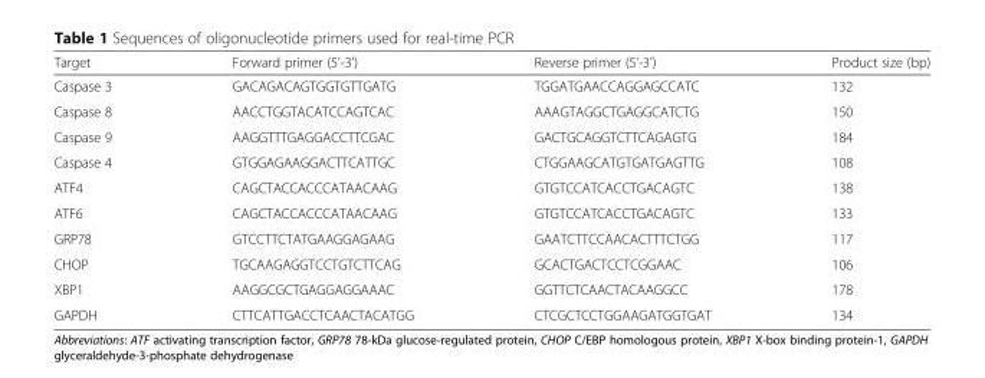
<table><thead><tr><td>Target</td><td>Forward primer (5&#x27;-3&#x27;)</td><td>Reverse primer (5&#x27;-3&#x27;)</td><td>Product size (bp)</td></tr></thead><tbody><tr><td>Caspase 3</td><td>GACAGACAGTGGTGTTGATG</td><td>TGGATGAACCAGGAGCCATC</td><td>132</td></tr><tr><td>Caspase 8</td><td>AACCTGGTACATCCAGTCAC</td><td>AAAGTAGGCTGAGGCATCTG</td><td>150</td></tr><tr><td>Caspase 9</td><td>AAGGTTTGAGGACCTTCGAC</td><td>GACTGCAGGTCTTCAGAGTG</td><td>184</td></tr><tr><td>Caspase 4</td><td>GTGGAGAAGGACTTCATTGC</td><td>CTGGAAGCATGTGATGAGTTG</td><td>108</td></tr><tr><td>ATF4</td><td>CAGCTACCACCCATAACAAG</td><td>GTGTCCATCACCTGACAGTC</td><td>138</td></tr><tr><td>ATF6</td><td>CAGCTACCACCCATAACAAG</td><td>GTGTCCATCACCTGACAGTC</td><td>133</td></tr><tr><td>GRP78</td><td>GTCCTTCTATGAAGGAGAAG</td><td>GAATCTTCCAACACTTTCTGG</td><td>117</td></tr><tr><td>CHOP</td><td>TGCAAGAGGTCCTGTCTTCAG</td><td>GCACTGACTCCTCGGAAC</td><td>106</td></tr><tr><td>XBP1</td><td>AAGGCGCTGAGGAGGAAAC</td><td>GGTTCTCAACTACAAGGCC</td><td>178</td></tr><tr><td>GAPDH</td><td>CTTCATTGACCTCAACTACATGG</td><td>CTCGCTCCTGGAAGATGGTGAT</td><td>134</td></tr></tbody></table>